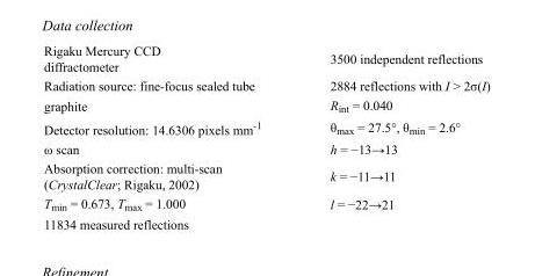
<table><tbody><tr><td>Rigaku Mercury CCD diffractometer</td><td>3500 independent reflections</td></tr><tr><td>Radiation source: fine-focus sealed tube</td><td>2884 reflections with I &gt; 2σ(I)</td></tr><tr><td>graphite</td><td>R<sub>int</sub> = 0.040</td></tr><tr><td>Detector resolution: 14.6306 pixels mm<sup>-1</sup></td><td>θ<sub>max</sub> = 27.5°, θ<sub>min</sub> = 2.6°</td></tr><tr><td>ω scan</td><td>h = −13→13</td></tr><tr><td>Absorption correction: multi-scan (CrystalClear; Rigaku, 2002)</td><td>k = −11→11</td></tr><tr><td>T<sub>min</sub> = 0.673, T<sub>max</sub> = 1.000</td><td>l = −22→21</td></tr><tr><td>11834 measured reflections</td><td></td></tr></tbody></table>